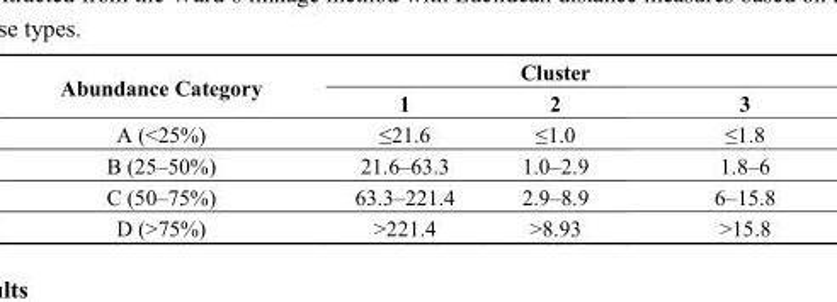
<table><thead><tr><td rowspan="2">Abundance Category</td><td rowspan="2">1</td><td rowspan="2">Cluster 2</td><td rowspan="2">3</td></tr><tr></tr></thead><tbody><tr><td>A (&lt;25%)</td><td>≤21.6</td><td>≤1.0</td><td>≤1.8</td></tr><tr><td>B (25–50%)</td><td>21.6–63.3</td><td>1.0–2.9</td><td>1.8–6</td></tr><tr><td>C (50–75%)</td><td>63.3–221.4</td><td>2.9–8.9</td><td>6–15.8</td></tr><tr><td>D (&gt;75%)</td><td>&gt;221.4</td><td>&gt;8.93</td><td>&gt;15.8</td></tr></tbody></table>